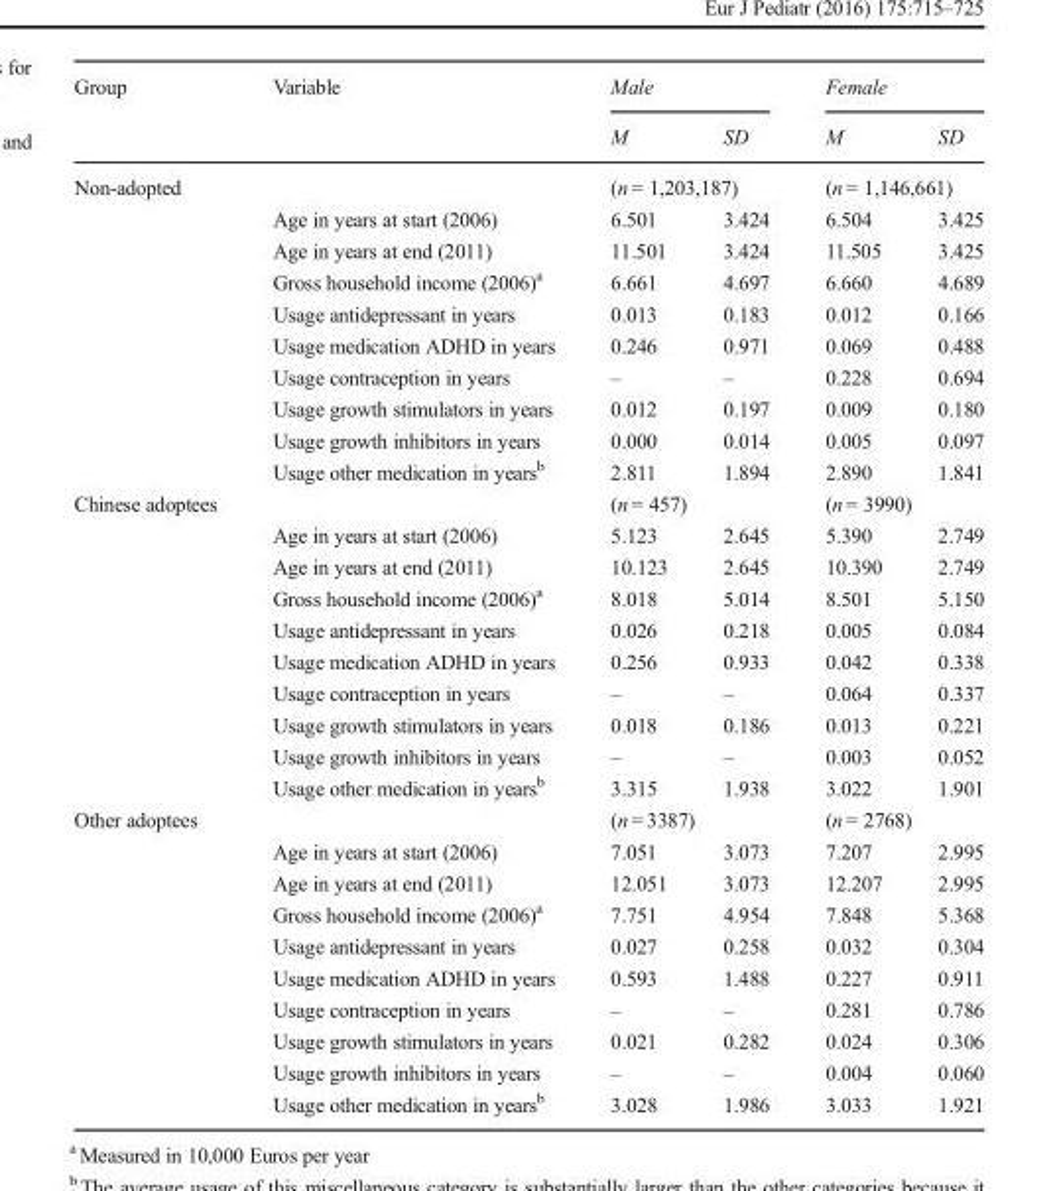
<table><thead><tr><td rowspan="2">Group</td><td rowspan="2">Variable</td><td colspan="2">Male</td><td colspan="2">Female</td></tr><tr><td>M</td><td>SD</td><td>M</td><td>SD</td></tr></thead><tbody><tr><td rowspan="10">Non-adopted</td><td></td><td colspan="2">(n = 1,203,187)</td><td colspan="2">(n = 1,146,661)</td></tr><tr><td>Age in years at start (2006)</td><td>6.501</td><td>3.424</td><td>6.504</td><td>3.425</td></tr><tr><td>Age in years at end (2011)</td><td>11.501</td><td>3.424</td><td>11.505</td><td>3.425</td></tr><tr><td>Gross household income (2006)<sup>a</sup></td><td>6.661</td><td>4.697</td><td>6.660</td><td>4.689</td></tr><tr><td>Usage antidepressant in years</td><td>0.013</td><td>0.183</td><td>0.012</td><td>0.166</td></tr><tr><td>Usage medication ADHD in years</td><td>0.246</td><td>0.971</td><td>0.069</td><td>0.488</td></tr><tr><td>Usage contraception in years</td><td>–</td><td>–</td><td>0.228</td><td>0.694</td></tr><tr><td>Usage growth stimulators in years</td><td>0.012</td><td>0.197</td><td>0.009</td><td>0.180</td></tr><tr><td>Usage growth inhibitors in years</td><td>0.000</td><td>0.014</td><td>0.005</td><td>0.097</td></tr><tr><td>Usage other medication in years<sup>b</sup></td><td>2.811</td><td>1.894</td><td>2.890</td><td>1.841</td></tr><tr><td rowspan="10">Chinese adoptees</td><td></td><td colspan="2">(n = 457)</td><td colspan="2">(n = 3990)</td></tr><tr><td>Age in years at start (2006)</td><td>5.123</td><td>2.645</td><td>5.390</td><td>2.749</td></tr><tr><td>Age in years at end (2011)</td><td>10.123</td><td>2.645</td><td>10.390</td><td>2.749</td></tr><tr><td>Gross household income (2006)<sup>a</sup></td><td>8.018</td><td>5.014</td><td>8.501</td><td>5.150</td></tr><tr><td>Usage antidepressant in years</td><td>0.026</td><td>0.218</td><td>0.005</td><td>0.084</td></tr><tr><td>Usage medication ADHD in years</td><td>0.256</td><td>0.933</td><td>0.042</td><td>0.338</td></tr><tr><td>Usage contraception in years</td><td>–</td><td>–</td><td>0.064</td><td>0.337</td></tr><tr><td>Usage growth stimulators in years</td><td>0.018</td><td>0.186</td><td>0.013</td><td>0.221</td></tr><tr><td>Usage growth inhibitors in years</td><td>–</td><td>–</td><td>0.003</td><td>0.052</td></tr><tr><td>Usage other medication in years<sup>b</sup></td><td>3.315</td><td>1.938</td><td>3.022</td><td>1.901</td></tr><tr><td rowspan="10">Other adoptees</td><td></td><td colspan="2">(n = 3387)</td><td colspan="2">(n = 2768)</td></tr><tr><td>Age in years at start (2006)</td><td>7.051</td><td>3.073</td><td>7.207</td><td>2.995</td></tr><tr><td>Age in years at end (2011)</td><td>12.051</td><td>3.073</td><td>12.207</td><td>2.995</td></tr><tr><td>Gross household income (2006)<sup>a</sup></td><td>7.751</td><td>4.954</td><td>7.848</td><td>5.368</td></tr><tr><td>Usage antidepressant in years</td><td>0.027</td><td>0.258</td><td>0.032</td><td>0.304</td></tr><tr><td>Usage medication ADHD in years</td><td>0.593</td><td>1.488</td><td>0.227</td><td>0.911</td></tr><tr><td>Usage contraception in years</td><td>–</td><td>–</td><td>0.281</td><td>0.786</td></tr><tr><td>Usage growth stimulators in years</td><td>0.021</td><td>0.282</td><td>0.024</td><td>0.306</td></tr><tr><td>Usage growth inhibitors in years</td><td>–</td><td>–</td><td>0.004</td><td>0.060</td></tr><tr><td>Usage other medication in years<sup>b</sup></td><td>3.028</td><td>1.986</td><td>3.033</td><td>1.921</td></tr></tbody></table>